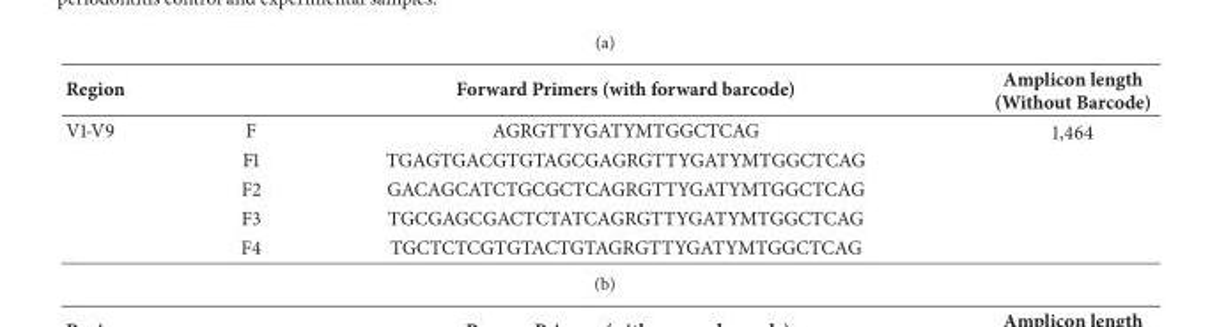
<table><thead><tr><td>Region</td><td></td><td>Forward Primers (with forward barcode)</td><td>Amplicon length (Without Barcode)</td></tr></thead><tbody><tr><td rowspan="5">V1-V9</td><td>F</td><td>AGRGTTYGATYMTGGCTCAG</td><td>1,464</td></tr><tr><td>F1</td><td>TGAGTGACGTGTAGCGAGRGTTYGATYMTGGCTCAG</td><td></td></tr><tr><td>F2</td><td>GACAGCATCTGCGCTCAGRGTTYGATYMTGGCTCAG</td><td></td></tr><tr><td>F3</td><td>TGCGAGCGACTCTATCAGRGTTYGATYMTGGCTCAG</td><td></td></tr><tr><td>F4</td><td>TGCTCTCGTGTACTGTAGRGTTYGATYMTGGCTCAG</td><td></td></tr></tbody></table>